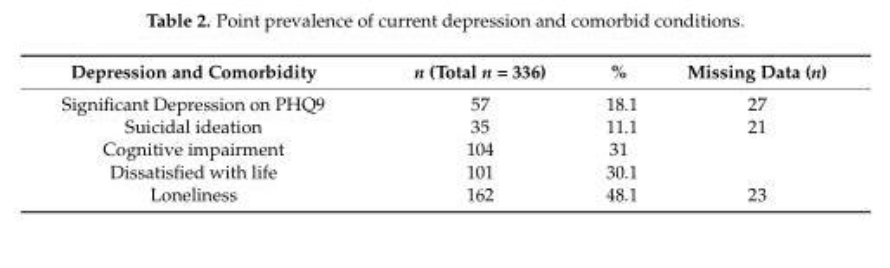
<table><thead><tr><td>Depression and Comorbidity</td><td>n (Total n = 336)</td><td>%</td><td>Missing Data (n)</td></tr></thead><tbody><tr><td>Significant Depression on PHQ9</td><td>57</td><td>18.1</td><td>27</td></tr><tr><td>Suicidal ideation</td><td>35</td><td>11.1</td><td>21</td></tr><tr><td>Cognitive impairment</td><td>104</td><td>31</td><td></td></tr><tr><td>Dissatisfied with life</td><td>101</td><td>30.1</td><td></td></tr><tr><td>Loneliness</td><td>162</td><td>48.1</td><td>23</td></tr></tbody></table>